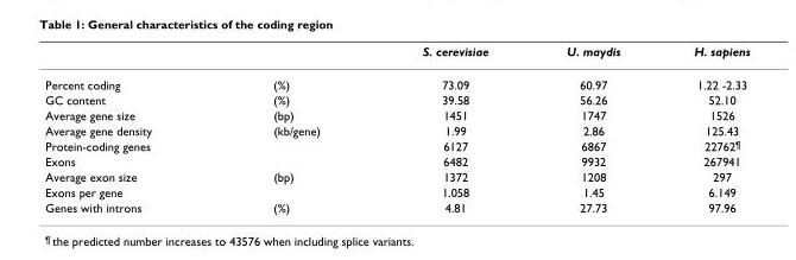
<table><thead><tr><td></td><td></td><td>S. cerevisiae</td><td>U. maydis</td><td>H. sapiens</td></tr></thead><tbody><tr><td>Percent coding</td><td>(%)</td><td>73.09</td><td>60.97</td><td>1.22 -2.33</td></tr><tr><td>GC content</td><td>(%)</td><td>39.58</td><td>56.26</td><td>52.10</td></tr><tr><td>Average gene size</td><td>(bp)</td><td>1451</td><td>1747</td><td>1526</td></tr><tr><td>Average gene density</td><td>(kb/gene)</td><td>1.99</td><td>2.86</td><td>125.43</td></tr><tr><td>Protein-coding genes</td><td></td><td>6127</td><td>6867</td><td>22762<sup>¶</sup></td></tr><tr><td>Exons</td><td></td><td>6482</td><td>9932</td><td>267941</td></tr><tr><td>Average exon size</td><td>(bp)</td><td>1372</td><td>1208</td><td>297</td></tr><tr><td>Exons per gene</td><td></td><td>1.058</td><td>1.45</td><td>6.149</td></tr><tr><td>Genes with introns</td><td>(%)</td><td>4.81</td><td>27.73</td><td>97.96</td></tr></tbody></table>